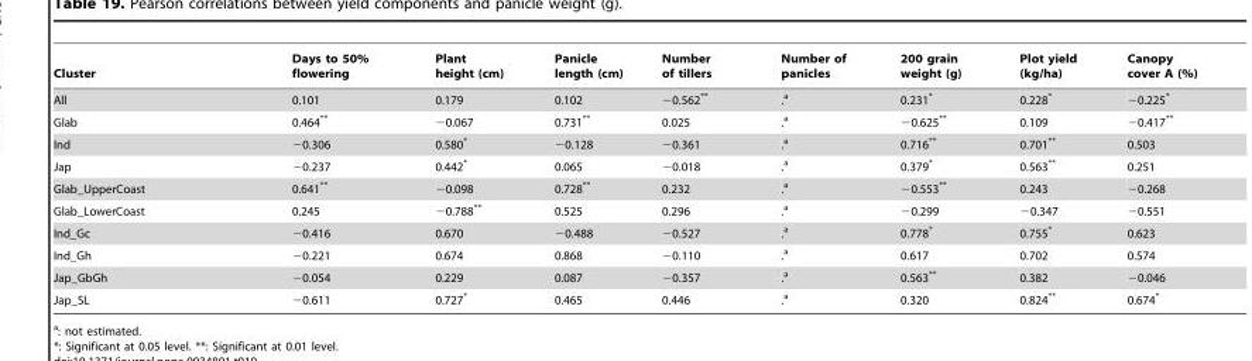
<table><thead><tr><td>Cluster</td><td>Days to 50% flowering</td><td>Plant height (cm)</td><td>Panicle length (cm)</td><td>Number of tillers</td><td>Number of panicles</td><td>200 grain weight (g)</td><td>Plot yield (kg/ha)</td><td>Canopy cover A (%)</td></tr></thead><tbody><tr><td>All</td><td>0.101</td><td>0.179</td><td>0.102</td><td>−0.562**</td><td>.<sup>a</sup></td><td>0.231*</td><td>0.228*</td><td>−0.225*</td></tr><tr><td>Glab</td><td>0.464**</td><td>−0.067</td><td>0.731**</td><td>0.025</td><td>.<sup>a</sup></td><td>−0.625**</td><td>0.109</td><td>−0.417**</td></tr><tr><td>Ind</td><td>−0.306</td><td>0.580*</td><td>−0.128</td><td>−0.361</td><td>.<sup>a</sup></td><td>0.716**</td><td>0.701**</td><td>0.503</td></tr><tr><td>Jap</td><td>−0.237</td><td>0.442*</td><td>0.065</td><td>−0.018</td><td>.<sup>a</sup></td><td>0.379*</td><td>0.563**</td><td>0.251</td></tr><tr><td>Glab_UpperCoast</td><td>0.641**</td><td>−0.098</td><td>0.728**</td><td>0.232</td><td>.<sup>a</sup></td><td>−0.553**</td><td>0.243</td><td>−0.268</td></tr><tr><td>Glab_LowerCoast</td><td>0.245</td><td>−0.788**</td><td>0.525</td><td>0.296</td><td>.<sup>a</sup></td><td>−0.299</td><td>−0.347</td><td>−0.551</td></tr><tr><td>Ind_Gc</td><td>−0.416</td><td>0.670</td><td>−0.488</td><td>−0.527</td><td>.<sup>a</sup></td><td>0.778*</td><td>0.755*</td><td>0.623</td></tr><tr><td>Ind_Gh</td><td>−0.221</td><td>0.674</td><td>0.868</td><td>−0.110</td><td>.<sup>a</sup></td><td>0.617</td><td>0.702</td><td>0.574</td></tr><tr><td>Jap_GbGh</td><td>−0.054</td><td>0.229</td><td>0.087</td><td>−0.357</td><td>.<sup>a</sup></td><td>0.563**</td><td>0.382</td><td>−0.046</td></tr><tr><td>Jap_SL</td><td>−0.611</td><td>0.727*</td><td>0.465</td><td>0.446</td><td>.<sup>a</sup></td><td>0.320</td><td>0.824**</td><td>0.674*</td></tr></tbody></table>